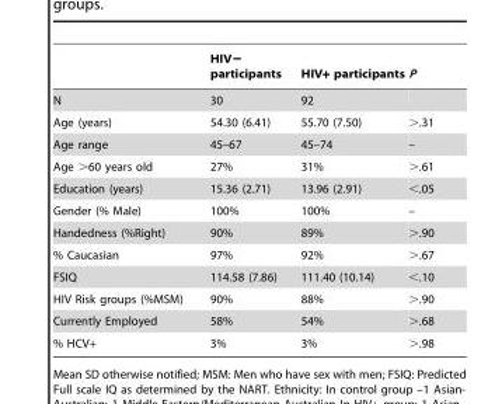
<table><thead><tr><td></td><td>HIV− participants</td><td>HIV+ participants</td><td>P</td></tr></thead><tbody><tr><td>N</td><td>30</td><td>92</td><td></td></tr><tr><td>Age (years)</td><td>54.30 (6.41)</td><td>55.70 (7.50)</td><td>&gt;.31</td></tr><tr><td>Age range</td><td>45–67</td><td>45–74</td><td>–</td></tr><tr><td>Age &gt;60 years old</td><td>27%</td><td>31%</td><td>&gt;.61</td></tr><tr><td>Education (years)</td><td>15.36 (2.71)</td><td>13.96 (2.91)</td><td>&lt;.05</td></tr><tr><td>Gender (% Male)</td><td>100%</td><td>100%</td><td>–</td></tr><tr><td>Handedness (%Right)</td><td>90%</td><td>89%</td><td>&gt;.90</td></tr><tr><td>% Caucasian</td><td>97%</td><td>92%</td><td>&gt;.67</td></tr><tr><td>FSIQ</td><td>114.58 (7.86)</td><td>111.40 (10.14)</td><td>&lt;.10</td></tr><tr><td>HIV Risk groups (%MSM)</td><td>90%</td><td>88%</td><td>&gt;.90</td></tr><tr><td>Currently Employed</td><td>58%</td><td>54%</td><td>&gt;.68</td></tr><tr><td>% HCV+</td><td>3%</td><td>3%</td><td>&gt;.98</td></tr></tbody></table>